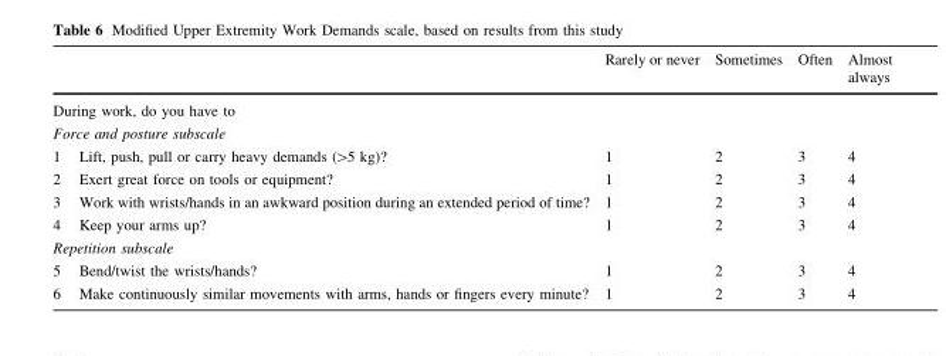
<table><thead><tr><td></td><td></td><td>Rarely or never</td><td>Sometimes</td><td>Often</td><td>Almost always</td></tr></thead><tbody><tr><td colspan="6">During work, do you have to</td></tr><tr><td colspan="6">Force and posture subscale</td></tr><tr><td>1</td><td>Lift, push, pull or carry heavy demands (&gt;5 kg)?</td><td>1</td><td>2</td><td>3</td><td>4</td></tr><tr><td>2</td><td>Exert great force on tools or equipment?</td><td>1</td><td>2</td><td>3</td><td>4</td></tr><tr><td>3</td><td>Work with wrists/hands in an awkward position during an extended period of time?</td><td>1</td><td>2</td><td>3</td><td>4</td></tr><tr><td>4</td><td>Keep your arms up?</td><td>1</td><td>2</td><td>3</td><td>4</td></tr><tr><td colspan="6">Repetition subscale</td></tr><tr><td>5</td><td>Bend/twist the wrists/hands?</td><td>1</td><td>2</td><td>3</td><td>4</td></tr><tr><td>6</td><td>Make continuously similar movements with arms, hands or fingers every minute?</td><td>1</td><td>2</td><td>3</td><td>4</td></tr></tbody></table>